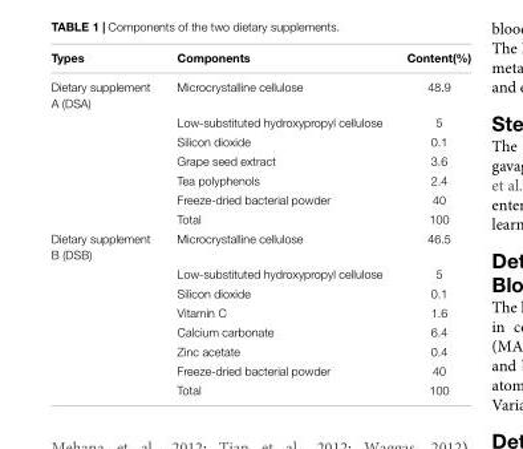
<table><thead><tr><td>Types</td><td>Components</td><td>Content(%)</td></tr></thead><tbody><tr><td rowspan="7">Dietary supplement A (DSA)</td><td>Microcrystalline cellulose</td><td>48.9</td></tr><tr><td>Low-substituted hydroxypropyl cellulose</td><td>5</td></tr><tr><td>Silicon dioxide</td><td>0.1</td></tr><tr><td>Grape seed extract</td><td>3.6</td></tr><tr><td>Tea polyphenols</td><td>2.4</td></tr><tr><td>Freeze-dried bacterial powder</td><td>40</td></tr><tr><td>Total</td><td>100</td></tr><tr><td rowspan="8">Dietary supplement B (DSB)</td><td>Microcrystalline cellulose</td><td>46.5</td></tr><tr><td>Low-substituted hydroxypropyl cellulose</td><td>5</td></tr><tr><td>Silicon dioxide</td><td>0.1</td></tr><tr><td>Vitamin C</td><td>1.6</td></tr><tr><td>Calcium carbonate</td><td>6.4</td></tr><tr><td>Zinc acetate</td><td>0.4</td></tr><tr><td>Freeze-dried bacterial powder</td><td>40</td></tr><tr><td>Total</td><td>100</td></tr></tbody></table>